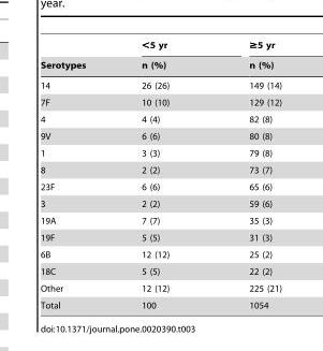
<table><thead><tr><td rowspan="2">Serotypes</td><td rowspan="2">&lt;5 yr n (%)</td><td rowspan="2">≥5 yr n (%)</td></tr><tr></tr></thead><tbody><tr><td>14</td><td>26 (26)</td><td>149 (14)</td></tr><tr><td>7F</td><td>10 (10)</td><td>129 (12)</td></tr><tr><td>4</td><td>4 (4)</td><td>82 (8)</td></tr><tr><td>9V</td><td>6 (6)</td><td>80 (8)</td></tr><tr><td>1</td><td>3 (3)</td><td>79 (8)</td></tr><tr><td>8</td><td>2 (2)</td><td>73 (7)</td></tr><tr><td>23F</td><td>6 (6)</td><td>65 (6)</td></tr><tr><td>3</td><td>2 (2)</td><td>59 (6)</td></tr><tr><td>19A</td><td>7 (7)</td><td>35 (3)</td></tr><tr><td>19F</td><td>5 (5)</td><td>31 (3)</td></tr><tr><td>6B</td><td>12 (12)</td><td>25 (2)</td></tr><tr><td>18C</td><td>5 (5)</td><td>22 (2)</td></tr><tr><td>Other</td><td>12 (12)</td><td>225 (21)</td></tr><tr><td>Total</td><td>100</td><td>1054</td></tr></tbody></table>